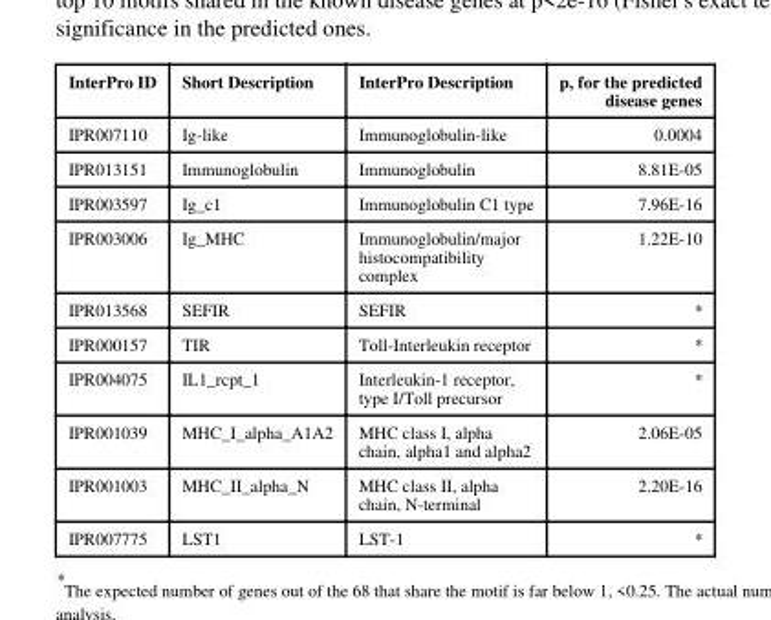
<table><thead><tr><td>InterPro ID</td><td>Short Description</td><td>InterPro Description</td><td>p, for the predicted disease genes</td></tr></thead><tbody><tr><td>IPR007110</td><td>Ig-like</td><td>Immunoglobulin-like</td><td>0.0004</td></tr><tr><td>IPR013151</td><td>Immunoglobulin</td><td>Immunoglobulin</td><td>8.81E-05</td></tr><tr><td>IPR003597</td><td>Ig_c1</td><td>Immunoglobulin C1 type</td><td>7.96E-16</td></tr><tr><td>IPR003006</td><td>Ig_MHC</td><td>Immunoglobulin/major histocompatibility complex</td><td>1.22E-10</td></tr><tr><td>IPR013568</td><td>SEFIR</td><td>SEFIR</td><td>*</td></tr><tr><td>IPR000157</td><td>TIR</td><td>Toll-Interleukin receptor</td><td>*</td></tr><tr><td>IPR004075</td><td>IL1_rcpt_1</td><td>Interleukin-1 receptor, type I/Toll precursor</td><td>*</td></tr><tr><td>IPR001039</td><td>MHC_I_alpha_A1A2</td><td>MHC class I, alpha chain, alpha1 and alpha2</td><td>2.06E-05</td></tr><tr><td>IPR001003</td><td>MHC_II_alpha_N</td><td>MHC class II, alpha chain, N-terminal</td><td>2.20E-16</td></tr><tr><td>IPR007775</td><td>LST1</td><td>LST-1</td><td>*</td></tr></tbody></table>